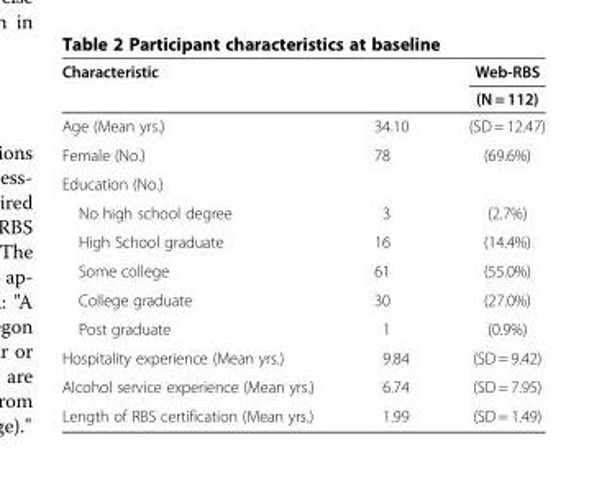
<table><thead><tr><td rowspan="2">Characteristic</td><td rowspan="2"></td><td rowspan="2">Web-RBS (N = 112)</td></tr><tr></tr></thead><tbody><tr><td>Age (Mean yrs.)</td><td>34.10</td><td>(SD = 12.47)</td></tr><tr><td>Female (No.)</td><td>78</td><td>(69.6%)</td></tr><tr><td colspan="3">Education (No.)</td></tr><tr><td>No high school degree</td><td>3</td><td>(2.7%)</td></tr><tr><td>High School graduate</td><td>16</td><td>(14.4%)</td></tr><tr><td>Some college</td><td>61</td><td>(55.0%)</td></tr><tr><td>College graduate</td><td>30</td><td>(27.0%)</td></tr><tr><td>Post graduate</td><td>1</td><td>(0.9%)</td></tr><tr><td>Hospitality experience (Mean yrs.)</td><td>9.84</td><td>(SD = 9.42)</td></tr><tr><td>Alcohol service experience (Mean yrs.)</td><td>6.74</td><td>(SD = 7.95)</td></tr><tr><td>Length of RBS certification (Mean yrs.)</td><td>1.99</td><td>(SD = 1.49)</td></tr></tbody></table>